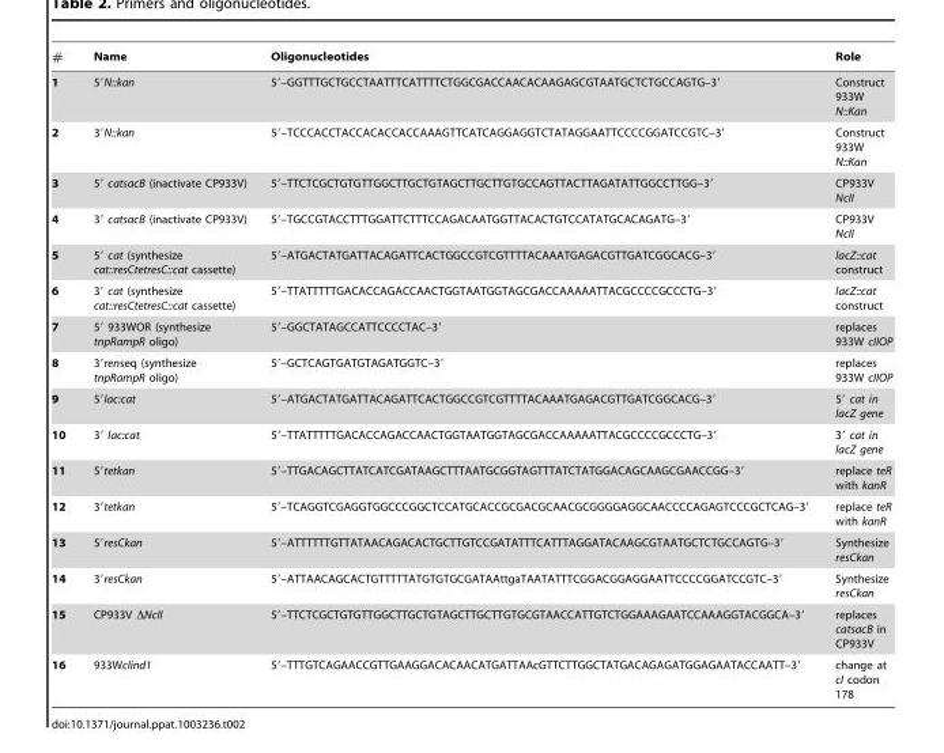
<table><thead><tr><td>#</td><td>Name</td><td>Oligonucleotides</td><td>Role</td></tr></thead><tbody><tr><td>1</td><td>5′N::kan</td><td>5′–GGTTTGCTGCCTAATTTCATTTTCTGGCGACCAACACAAGAGCGTAATGCTCTGCCAGTG–3′</td><td>Construct 933W N::Kan</td></tr><tr><td>2</td><td>3′N::kan</td><td>5′–TCCCACCTACCACACCACCAAAGTTCATCAGGAGGTCTATAGGAATTCCCCGGATCCGTC–3′</td><td>Construct 933W N::Kan</td></tr><tr><td>3</td><td>5′ catsacB (inactivate CP933V)</td><td>5′–TTCTCGCTGTGTTGGCTTGCTGTAGCTTGCTTGTGCCAGTTACTTAGATATTGGCCTTGG–3′</td><td>CP933V NcII</td></tr><tr><td>4</td><td>3′ catsacB (inactivate CP933V)</td><td>5′–TGCCGTACCTTTGGATTCTTTCCAGACAATGGTTACACTGTCCATATGCACAGATG–3′</td><td>CP933V NcII</td></tr><tr><td>5</td><td>5′ cat (synthesize cat::resCtetresC::cat cassette)</td><td>5′–ATGACTATGATTACAGATTCACTGGCCGTCGTTTTACAAATGAGACGTTGATCGGCACG–3′</td><td>lacZ::cat construct</td></tr><tr><td>6</td><td>3′ cat (synthesize cat::resCtetresC::cat cassette)</td><td>5′–TTATTTTTGACACCAGACCAACTGGTAATGGTAGCGACCAAAAATTACGCCCCGCCCTG–3′</td><td>lacZ::cat construct</td></tr><tr><td>7</td><td>5′ 933WOR (synthesize tnpRampR oligo)</td><td>5′–GGCTATAGCCATTCCCCTAC–3′</td><td>replaces 933W cIIOP</td></tr><tr><td>8</td><td>3′renseq (synthesize tnpRampR oligo)</td><td>5′–GCTCAGTGATGTAGATGGTC–3′</td><td>replaces 933W cIIOP</td></tr><tr><td>9</td><td>5′lac:cat</td><td>5′–ATGACTATGATTACAGATTCACTGGCCGTCGTTTTACAAATGAGACGTTGATCGGCACG–3′</td><td>5′ cat in lacZ gene</td></tr><tr><td>10</td><td>3′ lac:cat</td><td>5′–TTATTTTTGACACCAGACCAACTGGTAATGGTAGCGACCAAAAATTACGCCCCGCCCTG–3′</td><td>3′ cat in lacZ gene</td></tr><tr><td>11</td><td>5′tetkan</td><td>5′–TTGACAGCTTATCATCGATAAGCTTTAATGCGGTAGTTTATCTATGGACAGCAAGCGAACCGG–3′</td><td>replace teR with kanR</td></tr><tr><td>12</td><td>3′tetkan</td><td>5′–TCAGGTCGAGGTGGCCCGGCTCCATGCACCGCGACGCAACGCGGGGAGGCAACCCCAGAGTCCCGCTCAG–3′</td><td>replace teR with kanR</td></tr><tr><td>13</td><td>5′resCkan</td><td>5′–ATTTTTTGTTATAACAGACACTGCTTGTCCGATATTTCATTTAGGATACAAGCGTAATGCTCTGCCAGTG–3′</td><td>Synthesize resCkan</td></tr><tr><td>14</td><td>3′resCkan</td><td>5′–ATTAACAGCACTGTTTTTATGTGTGCGATAAttgaTAATATTTCGGACGGAGGAATTCCCCGGATCCGTC–3′</td><td>Synthesize resCkan</td></tr><tr><td>15</td><td>CP933V ΔNcII</td><td>5′–TTCTCGCTGTGTTGGCTTGCTGTAGCTTGCTTGTGCGTAACCATTGTCTGGAAAGAATCCAAAGGTACGGCA–3′</td><td>replaces catsacB in CP933V</td></tr><tr><td>16</td><td>933WcIind1</td><td>5′–TTTGTCAGAACCGTTGAAGGACACAACATGATTAAcGTTCTTGGCTATGACAGAGATGGAGAATACCAATT–3′</td><td>change at cI codon 178</td></tr></tbody></table>